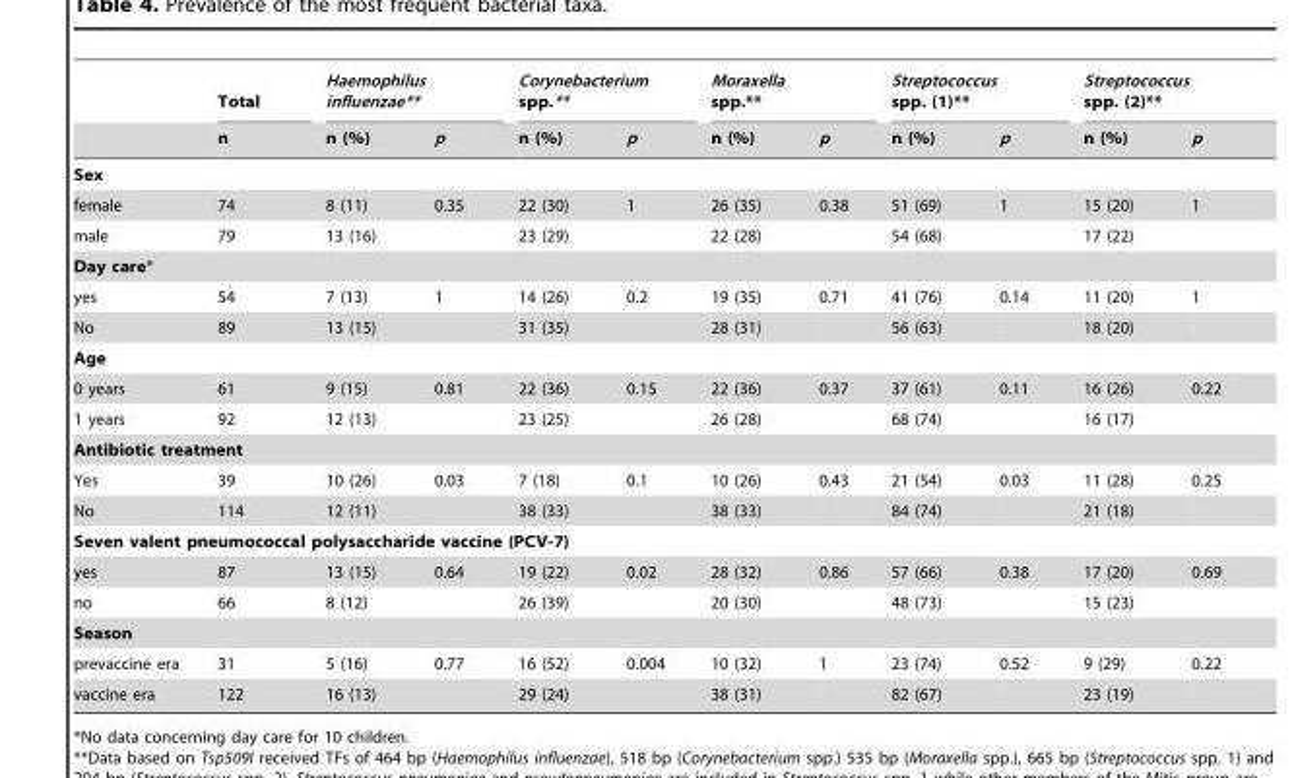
<table><thead><tr><td rowspan="2"></td><td rowspan="2">Total n</td><td colspan="2">Haemophilus influenzae**</td><td colspan="2">Corynebacterium spp.**</td><td colspan="2">Moraxella spp.**</td><td colspan="2">Streptococcus spp. (1)**</td><td colspan="2">Streptococcus spp. (2)**</td></tr><tr><td>n (%)</td><td>p</td><td>n (%)</td><td>p</td><td>n (%)</td><td>p</td><td>n (%)</td><td>p</td><td>n (%)</td><td>p</td></tr></thead><tbody><tr><td colspan="12">Sex</td></tr><tr><td>female</td><td>74</td><td>8 (11)</td><td>0.35</td><td>22 (30)</td><td>1</td><td>26 (35)</td><td>0.38</td><td>51 (69)</td><td>1</td><td>15 (20)</td><td>1</td></tr><tr><td>male</td><td>79</td><td>13 (16)</td><td></td><td>23 (29)</td><td></td><td>22 (28)</td><td></td><td>54 (68)</td><td></td><td>17 (22)</td><td></td></tr><tr><td colspan="12">Day care*</td></tr><tr><td>yes</td><td>54</td><td>7 (13)</td><td>1</td><td>14 (26)</td><td>0.2</td><td>19 (35)</td><td>0.71</td><td>41 (76)</td><td>0.14</td><td>11 (20)</td><td>1</td></tr><tr><td>No</td><td>89</td><td>13 (15)</td><td></td><td>31 (35)</td><td></td><td>28 (31)</td><td></td><td>56 (63)</td><td></td><td>18 (20)</td><td></td></tr><tr><td colspan="12">Age</td></tr><tr><td>0 years</td><td>61</td><td>9 (15)</td><td>0.81</td><td>22 (36)</td><td>0.15</td><td>22 (36)</td><td>0.37</td><td>37 (61)</td><td>0.11</td><td>16 (26)</td><td>0.22</td></tr><tr><td>1 years</td><td>92</td><td>12 (13)</td><td></td><td>23 (25)</td><td></td><td>26 (28)</td><td></td><td>68 (74)</td><td></td><td>16 (17)</td><td></td></tr><tr><td colspan="12">Antibiotic treatment</td></tr><tr><td>Yes</td><td>39</td><td>10 (26)</td><td>0.03</td><td>7 (18)</td><td>0.1</td><td>10 (26)</td><td>0.43</td><td>21 (54)</td><td>0.03</td><td>11 (28)</td><td>0.25</td></tr><tr><td>No</td><td>114</td><td>12 (11)</td><td></td><td>38 (33)</td><td></td><td>38 (33)</td><td></td><td>84 (74)</td><td></td><td>21 (18)</td><td></td></tr><tr><td colspan="12">Seven valent pneumococcal polysaccharide vaccine (PCV-7)</td></tr><tr><td>yes</td><td>87</td><td>13 (15)</td><td>0.64</td><td>19 (22)</td><td>0.02</td><td>28 (32)</td><td>0.86</td><td>57 (66)</td><td>0.38</td><td>17 (20)</td><td>0.69</td></tr><tr><td>no</td><td>66</td><td>8 (12)</td><td></td><td>26 (39)</td><td></td><td>20 (30)</td><td></td><td>48 (73)</td><td></td><td>15 (23)</td><td></td></tr><tr><td colspan="12">Season</td></tr><tr><td>prevaccine era</td><td>31</td><td>5 (16)</td><td>0.77</td><td>16 (52)</td><td>0.004</td><td>10 (32)</td><td>1</td><td>23 (74)</td><td>0.52</td><td>9 (29)</td><td>0.22</td></tr><tr><td>vaccine era</td><td>122</td><td>16 (13)</td><td></td><td>29 (24)</td><td></td><td>38 (31)</td><td></td><td>82 (67)</td><td></td><td>23 (19)</td><td></td></tr></tbody></table>